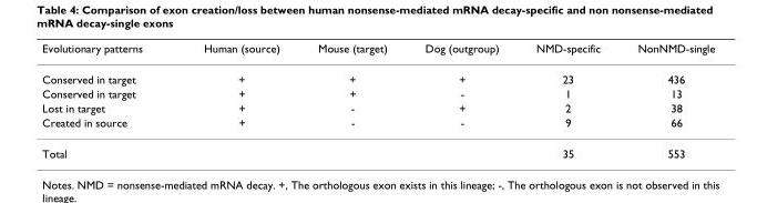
<table><thead><tr><td>Evolutionary patterns</td><td>Human (source)</td><td>Mouse (target)</td><td>Dog (outgroup)</td><td>NMD-specific</td><td>NonNMD-single</td></tr></thead><tbody><tr><td>Conserved in target</td><td>+</td><td>+</td><td>+</td><td>23</td><td>436</td></tr><tr><td>Conserved in target</td><td>+</td><td>+</td><td>-</td><td>1</td><td>13</td></tr><tr><td>Lost in target</td><td>+</td><td>-</td><td>+</td><td>2</td><td>38</td></tr><tr><td>Created in source</td><td>+</td><td>-</td><td>-</td><td>9</td><td>66</td></tr><tr><td>Total</td><td></td><td></td><td></td><td>35</td><td>553</td></tr></tbody></table>